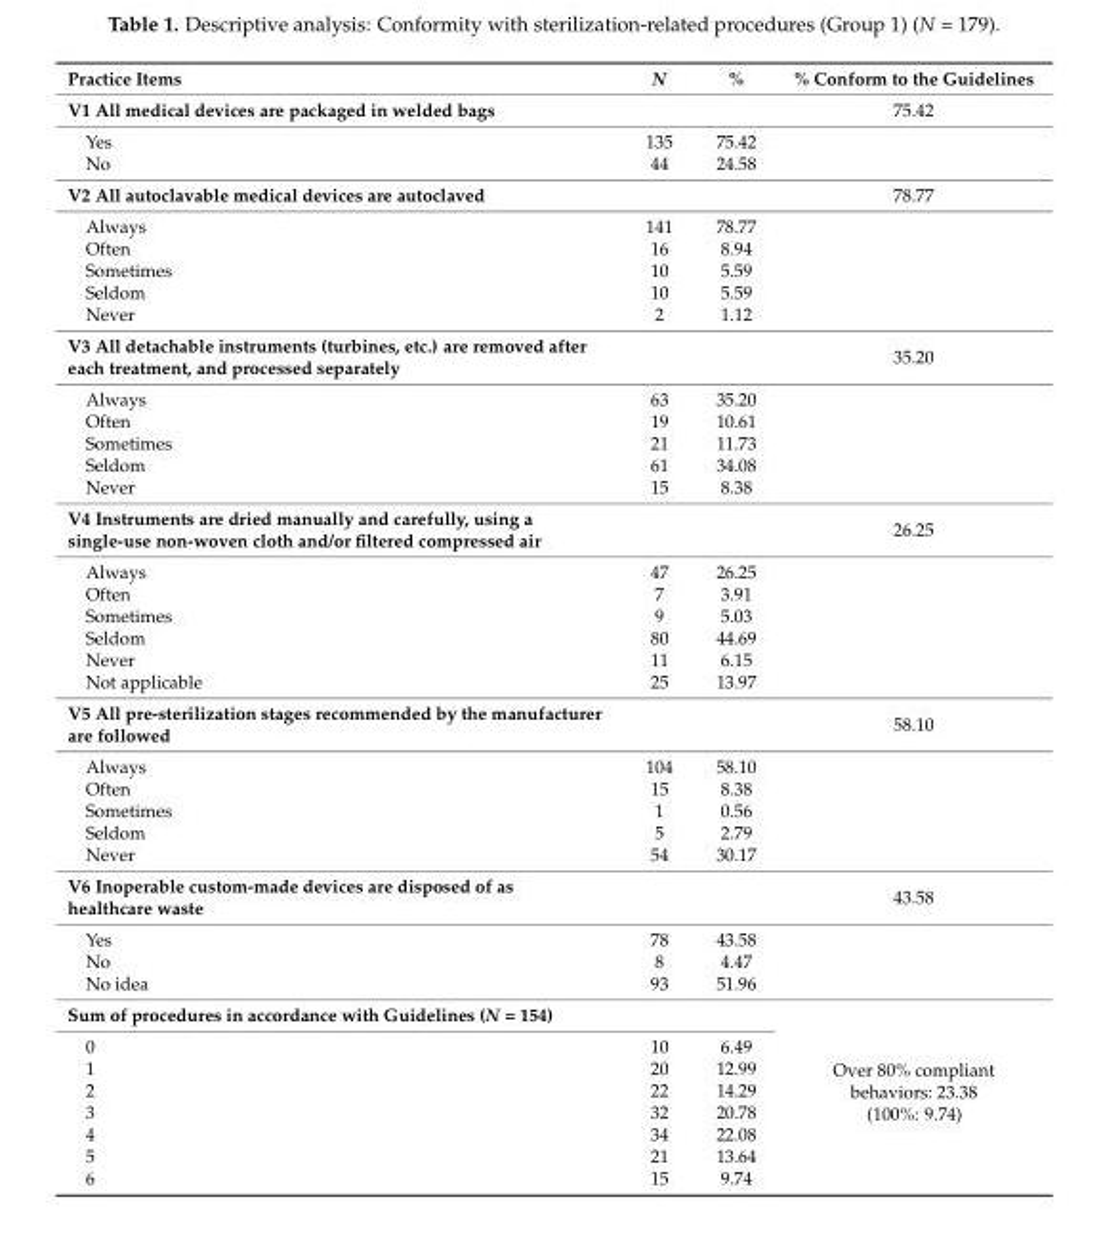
<table><thead><tr><td>Practice Items</td><td>N</td><td>%</td><td>% Conform to the Guidelines</td></tr></thead><tbody><tr><td>V1 All medical devices are packaged in welded bags</td><td></td><td></td><td>75.42</td></tr><tr><td>Yes</td><td>135</td><td>75.42</td><td></td></tr><tr><td>No</td><td>44</td><td>24.58</td><td></td></tr><tr><td>V2 All autoclavable medical devices are autoclaved</td><td></td><td></td><td>78.77</td></tr><tr><td>Always</td><td>141</td><td>78.77</td><td></td></tr><tr><td>Often</td><td>16</td><td>8.94</td><td></td></tr><tr><td>Sometimes</td><td>10</td><td>5.59</td><td></td></tr><tr><td>Seldom</td><td>10</td><td>5.59</td><td></td></tr><tr><td>Never</td><td>2</td><td>1.12</td><td></td></tr><tr><td>V3 All detachable instruments (turbines, etc.) are removed after each treatment, and processed separately</td><td></td><td></td><td>35.20</td></tr><tr><td>Always</td><td>63</td><td>35.20</td><td></td></tr><tr><td>Often</td><td>19</td><td>10.61</td><td></td></tr><tr><td>Sometimes</td><td>21</td><td>11.73</td><td></td></tr><tr><td>Seldom</td><td>61</td><td>34.08</td><td></td></tr><tr><td>Never</td><td>15</td><td>8.38</td><td></td></tr><tr><td>V4 Instruments are dried manually and carefully, using a single-use non-woven cloth and/or filtered compressed air</td><td></td><td></td><td>26.25</td></tr><tr><td>Always</td><td>47</td><td>26.25</td><td></td></tr><tr><td>Often</td><td>7</td><td>3.91</td><td></td></tr><tr><td>Sometimes</td><td>9</td><td>5.03</td><td></td></tr><tr><td>Seldom</td><td>80</td><td>44.69</td><td></td></tr><tr><td>Never</td><td>11</td><td>6.15</td><td></td></tr><tr><td>Not applicable</td><td>25</td><td>13.97</td><td></td></tr><tr><td>V5 All pre-sterilization stages recommended by the manufacturer are followed</td><td></td><td></td><td>58.10</td></tr><tr><td>Always</td><td>104</td><td>58.10</td><td></td></tr><tr><td>Often</td><td>15</td><td>8.38</td><td></td></tr><tr><td>Sometimes</td><td>1</td><td>0.56</td><td></td></tr><tr><td>Seldom</td><td>5</td><td>2.79</td><td></td></tr><tr><td>Never</td><td>54</td><td>30.17</td><td></td></tr><tr><td>V6 Inoperable custom-made devices are disposed of as healthcare waste</td><td></td><td></td><td>43.58</td></tr><tr><td>Yes</td><td>78</td><td>43.58</td><td></td></tr><tr><td>No</td><td>8</td><td>4.47</td><td></td></tr><tr><td>No idea</td><td>93</td><td>51.96</td><td></td></tr><tr><td colspan="3">Sum of procedures in accordance with Guidelines (N = 154)</td><td rowspan="8">Over 80% compliant behaviors: 23.38 (100%: 9.74)</td></tr><tr><td>0</td><td>10</td><td>6.49</td></tr><tr><td>1</td><td>20</td><td>12.99</td></tr><tr><td>2</td><td>22</td><td>14.29</td></tr><tr><td>3</td><td>32</td><td>20.78</td></tr><tr><td>4</td><td>34</td><td>22.08</td></tr><tr><td>5</td><td>21</td><td>13.64</td></tr><tr><td>6</td><td>15</td><td>9.74</td></tr></tbody></table>